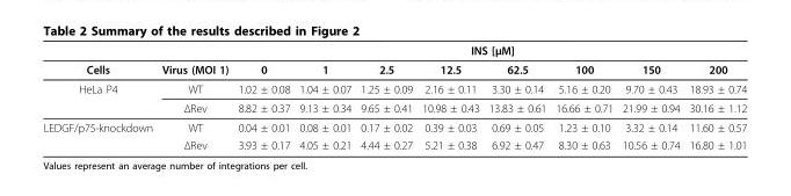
<table><thead><tr><td rowspan="2">Cells</td><td rowspan="2">Virus (MOI 1)</td><td colspan="8">INS [μM]</td></tr><tr><td>0</td><td>1</td><td>2.5</td><td>12.5</td><td>62.5</td><td>100</td><td>150</td><td>200</td></tr></thead><tbody><tr><td rowspan="2">HeLa P4</td><td>WT</td><td>1.02 ± 0.08</td><td>1.04 ± 0.07</td><td>1.25 ± 0.09</td><td>2.16 ± 0.11</td><td>3.30 ± 0.14</td><td>5.16 ± 0.20</td><td>9.70 ± 0.43</td><td>18.93 ± 0.74</td></tr><tr><td>ΔRev</td><td>8.82 ± 0.37</td><td>9.13 ± 0.34</td><td>9.65 ± 0.41</td><td>10.98 ± 0.43</td><td>13.83 ± 0.61</td><td>16.66 ± 0.71</td><td>21.99 ± 0.94</td><td>30.16 ± 1.12</td></tr><tr><td rowspan="2">LEDGF/p75-knockdown</td><td>WT</td><td>0.04 ± 0.01</td><td>0.08 ± 0.01</td><td>0.17 ± 0.02</td><td>0.39 ± 0.03</td><td>0.69 ± 0.05</td><td>1.23 ± 0.10</td><td>3.32 ± 0.14</td><td>11.60 ± 0.57</td></tr><tr><td>ΔRev</td><td>3.93 ± 0.17</td><td>4.05 ± 0.21</td><td>4.44 ± 0.27</td><td>5.21 ± 0.38</td><td>6.92 ± 0.47</td><td>8.30 ± 0.63</td><td>10.56 ± 0.74</td><td>16.80 ± 1.01</td></tr></tbody></table>